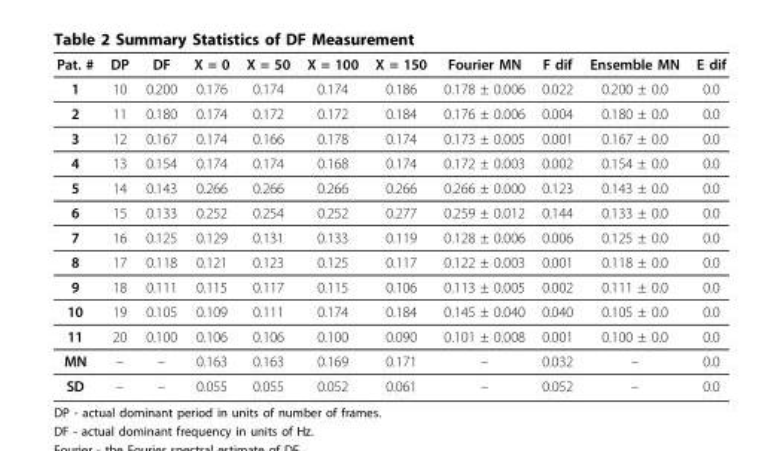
<table><thead><tr><td>Pat. #</td><td>DP</td><td>DF</td><td>X = 0</td><td>X = 50</td><td>X = 100</td><td>X = 150</td><td>Fourier MN</td><td>F dif</td><td>Ensemble MN</td><td>E dif</td></tr></thead><tbody><tr><td>1</td><td>10</td><td>0.200</td><td>0.176</td><td>0.174</td><td>0.174</td><td>0.186</td><td>0.178 ± 0.006</td><td>0.022</td><td>0.200 ± 0.0</td><td>0.0</td></tr><tr><td>2</td><td>11</td><td>0.180</td><td>0.174</td><td>0.172</td><td>0.172</td><td>0.184</td><td>0.176 ± 0.006</td><td>0.004</td><td>0.180 ± 0.0</td><td>0.0</td></tr><tr><td>3</td><td>12</td><td>0.167</td><td>0.174</td><td>0.166</td><td>0.178</td><td>0.174</td><td>0.173 ± 0.005</td><td>0.001</td><td>0.167 ± 0.0</td><td>0.0</td></tr><tr><td>4</td><td>13</td><td>0.154</td><td>0.174</td><td>0.174</td><td>0.168</td><td>0.174</td><td>0.172 ± 0.003</td><td>0.002</td><td>0.154 ± 0.0</td><td>0.0</td></tr><tr><td>5</td><td>14</td><td>0.143</td><td>0.266</td><td>0.266</td><td>0.266</td><td>0.266</td><td>0.266 ± 0.000</td><td>0.123</td><td>0.143 ± 0.0</td><td>0.0</td></tr><tr><td>6</td><td>15</td><td>0.133</td><td>0.252</td><td>0.254</td><td>0.252</td><td>0.277</td><td>0.259 ± 0.012</td><td>0.144</td><td>0.133 ± 0.0</td><td>0.0</td></tr><tr><td>7</td><td>16</td><td>0.125</td><td>0.129</td><td>0.131</td><td>0.133</td><td>0.119</td><td>0.128 ± 0.006</td><td>0.006</td><td>0.125 ± 0.0</td><td>0.0</td></tr><tr><td>8</td><td>17</td><td>0.118</td><td>0.121</td><td>0.123</td><td>0.125</td><td>0.117</td><td>0.122 ± 0.003</td><td>0.001</td><td>0.118 ± 0.0</td><td>0.0</td></tr><tr><td>9</td><td>18</td><td>0.111</td><td>0.115</td><td>0.117</td><td>0.115</td><td>0.106</td><td>0.113 ± 0.005</td><td>0.002</td><td>0.111 ± 0.0</td><td>0.0</td></tr><tr><td>10</td><td>19</td><td>0.105</td><td>0.109</td><td>0.111</td><td>0.174</td><td>0.184</td><td>0.145 ± 0.040</td><td>0.040</td><td>0.105 ± 0.0</td><td>0.0</td></tr><tr><td>11</td><td>20</td><td>0.100</td><td>0.106</td><td>0.106</td><td>0.100</td><td>0.090</td><td>0.101 ± 0.008</td><td>0.001</td><td>0.100 ± 0.0</td><td>0.0</td></tr><tr><td>MN</td><td>–</td><td>–</td><td>0.163</td><td>0.163</td><td>0.169</td><td>0.171</td><td>–</td><td>0.032</td><td>–</td><td>0.0</td></tr><tr><td>SD</td><td>–</td><td>–</td><td>0.055</td><td>0.055</td><td>0.052</td><td>0.061</td><td>–</td><td>0.052</td><td>–</td><td>0.0</td></tr></tbody></table>